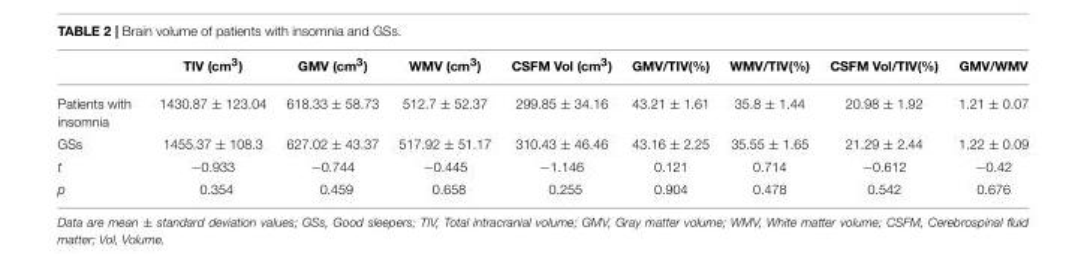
<table><thead><tr><td></td><td>TIV (cm<sup>3</sup>)</td><td>GMV (cm<sup>3</sup>)</td><td>WMV (cm<sup>3</sup>)</td><td>CSFM Vol (cm<sup>3</sup>)</td><td>GMV/TIV(%)</td><td>WMV/TIV(%)</td><td>CSFM Vol/TIV(%)</td><td>GMV/WMV</td></tr></thead><tbody><tr><td>Patients with insomnia</td><td>1430.87 ± 123.04</td><td>618.33 ± 58.73</td><td>512.7 ± 52.37</td><td>299.85 ± 34.16</td><td>43.21 ± 1.61</td><td>35.8 ± 1.44</td><td>20.98 ± 1.92</td><td>1.21 ± 0.07</td></tr><tr><td>GSs</td><td>1455.37 ± 108.3</td><td>627.02 ± 43.37</td><td>517.92 ± 51.17</td><td>310.43 ± 46.46</td><td>43.16 ± 2.25</td><td>35.55 ± 1.65</td><td>21.29 ± 2.44</td><td>1.22 ± 0.09</td></tr><tr><td>t</td><td>−0.933</td><td>−0.744</td><td>−0.445</td><td>−1.146</td><td>0.121</td><td>0.714</td><td>−0.612</td><td>−0.42</td></tr><tr><td>p</td><td>0.354</td><td>0.459</td><td>0.658</td><td>0.255</td><td>0.904</td><td>0.478</td><td>0.542</td><td>0.676</td></tr></tbody></table>